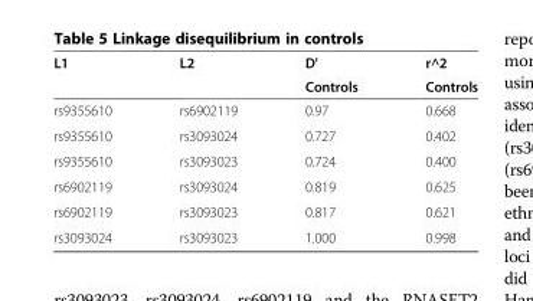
<table><thead><tr><td rowspan="2">L1</td><td rowspan="2">L2</td><td rowspan="2">D&#x27; Controls</td><td rowspan="2">r^2 Controls</td></tr><tr></tr></thead><tbody><tr><td>rs9355610</td><td>rs6902119</td><td>0.97</td><td>0.668</td></tr><tr><td>rs9355610</td><td>rs3093024</td><td>0.727</td><td>0.402</td></tr><tr><td>rs9355610</td><td>rs3093023</td><td>0.724</td><td>0.400</td></tr><tr><td>rs6902119</td><td>rs3093024</td><td>0.819</td><td>0.625</td></tr><tr><td>rs6902119</td><td>rs3093023</td><td>0.817</td><td>0.621</td></tr><tr><td>rs3093024</td><td>rs3093023</td><td>1.000</td><td>0.998</td></tr></tbody></table>